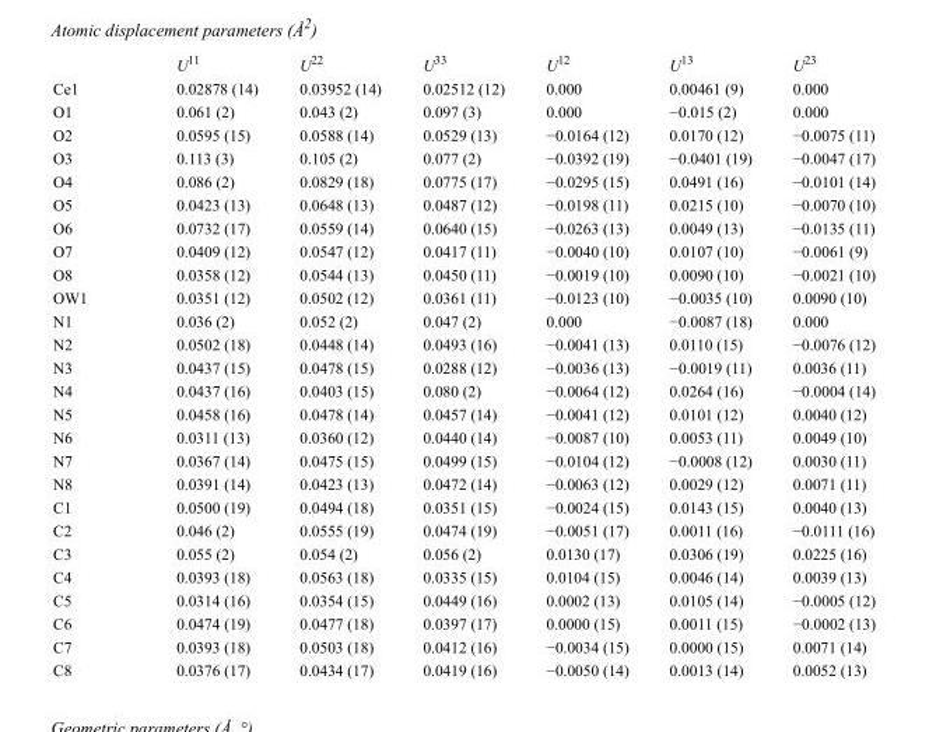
<table><thead><tr><td></td><td>U<sup>11</sup></td><td>U<sup>22</sup></td><td>U<sup>33</sup></td><td>U<sup>12</sup></td><td>U<sup>13</sup></td><td>U<sup>23</sup></td></tr></thead><tbody><tr><td>Ce1</td><td>0.02878 (14)</td><td>0.03952 (14)</td><td>0.02512 (12)</td><td>0.000</td><td>0.00461 (9)</td><td>0.000</td></tr><tr><td>O1</td><td>0.061 (2)</td><td>0.043 (2)</td><td>0.097 (3)</td><td>0.000</td><td>−0.015 (2)</td><td>0.000</td></tr><tr><td>O2</td><td>0.0595 (15)</td><td>0.0588 (14)</td><td>0.0529 (13)</td><td>−0.0164 (12)</td><td>0.0170 (12)</td><td>−0.0075 (11)</td></tr><tr><td>O3</td><td>0.113 (3)</td><td>0.105 (2)</td><td>0.077 (2)</td><td>−0.0392 (19)</td><td>−0.0401 (19)</td><td>−0.0047 (17)</td></tr><tr><td>O4</td><td>0.086 (2)</td><td>0.0829 (18)</td><td>0.0775 (17)</td><td>−0.0295 (15)</td><td>0.0491 (16)</td><td>−0.0101 (14)</td></tr><tr><td>O5</td><td>0.0423 (13)</td><td>0.0648 (13)</td><td>0.0487 (12)</td><td>−0.0198 (11)</td><td>0.0215 (10)</td><td>−0.0070 (10)</td></tr><tr><td>O6</td><td>0.0732 (17)</td><td>0.0559 (14)</td><td>0.0640 (15)</td><td>−0.0263 (13)</td><td>0.0049 (13)</td><td>−0.0135 (11)</td></tr><tr><td>O7</td><td>0.0409 (12)</td><td>0.0547 (12)</td><td>0.0417 (11)</td><td>−0.0040 (10)</td><td>0.0107 (10)</td><td>−0.0061 (9)</td></tr><tr><td>O8</td><td>0.0358 (12)</td><td>0.0544 (13)</td><td>0.0450 (11)</td><td>−0.0019 (10)</td><td>0.0090 (10)</td><td>−0.0021 (10)</td></tr><tr><td>OW1</td><td>0.0351 (12)</td><td>0.0502 (12)</td><td>0.0361 (11)</td><td>−0.0123 (10)</td><td>−0.0035 (10)</td><td>0.0090 (10)</td></tr><tr><td>N1</td><td>0.036 (2)</td><td>0.052 (2)</td><td>0.047 (2)</td><td>0.000</td><td>−0.0087 (18)</td><td>0.000</td></tr><tr><td>N2</td><td>0.0502 (18)</td><td>0.0448 (14)</td><td>0.0493 (16)</td><td>−0.0041 (13)</td><td>0.0110 (15)</td><td>−0.0076 (12)</td></tr><tr><td>N3</td><td>0.0437 (15)</td><td>0.0478 (15)</td><td>0.0288 (12)</td><td>−0.0036 (13)</td><td>−0.0019 (11)</td><td>0.0036 (11)</td></tr><tr><td>N4</td><td>0.0437 (16)</td><td>0.0403 (15)</td><td>0.080 (2)</td><td>−0.0064 (12)</td><td>0.0264 (16)</td><td>−0.0004 (14)</td></tr><tr><td>N5</td><td>0.0458 (16)</td><td>0.0478 (14)</td><td>0.0457 (14)</td><td>−0.0041 (12)</td><td>0.0101 (12)</td><td>0.0040 (12)</td></tr><tr><td>N6</td><td>0.0311 (13)</td><td>0.0360 (12)</td><td>0.0440 (14)</td><td>−0.0087 (10)</td><td>0.0053 (11)</td><td>0.0049 (10)</td></tr><tr><td>N7</td><td>0.0367 (14)</td><td>0.0475 (15)</td><td>0.0499 (15)</td><td>−0.0104 (12)</td><td>−0.0008 (12)</td><td>0.0030 (11)</td></tr><tr><td>N8</td><td>0.0391 (14)</td><td>0.0423 (13)</td><td>0.0472 (14)</td><td>−0.0063 (12)</td><td>0.0029 (12)</td><td>0.0071 (11)</td></tr><tr><td>C1</td><td>0.0500 (19)</td><td>0.0494 (18)</td><td>0.0351 (15)</td><td>−0.0024 (15)</td><td>0.0143 (15)</td><td>0.0040 (13)</td></tr><tr><td>C2</td><td>0.046 (2)</td><td>0.0555 (19)</td><td>0.0474 (19)</td><td>−0.0051 (17)</td><td>0.0011 (16)</td><td>−0.0111 (16)</td></tr><tr><td>C3</td><td>0.055 (2)</td><td>0.054 (2)</td><td>0.056 (2)</td><td>0.0130 (17)</td><td>0.0306 (19)</td><td>0.0225 (16)</td></tr><tr><td>C4</td><td>0.0393 (18)</td><td>0.0563 (18)</td><td>0.0335 (15)</td><td>0.0104 (15)</td><td>0.0046 (14)</td><td>0.0039 (13)</td></tr><tr><td>C5</td><td>0.0314 (16)</td><td>0.0354 (15)</td><td>0.0449 (16)</td><td>0.0002 (13)</td><td>0.0105 (14)</td><td>−0.0005 (12)</td></tr><tr><td>C6</td><td>0.0474 (19)</td><td>0.0477 (18)</td><td>0.0397 (17)</td><td>0.0000 (15)</td><td>0.0011 (15)</td><td>−0.0002 (13)</td></tr><tr><td>C7</td><td>0.0393 (18)</td><td>0.0503 (18)</td><td>0.0412 (16)</td><td>−0.0034 (15)</td><td>0.0000 (15)</td><td>0.0071 (14)</td></tr><tr><td>C8</td><td>0.0376 (17)</td><td>0.0434 (17)</td><td>0.0419 (16)</td><td>−0.0050 (14)</td><td>0.0013 (14)</td><td>0.0052 (13)</td></tr></tbody></table>